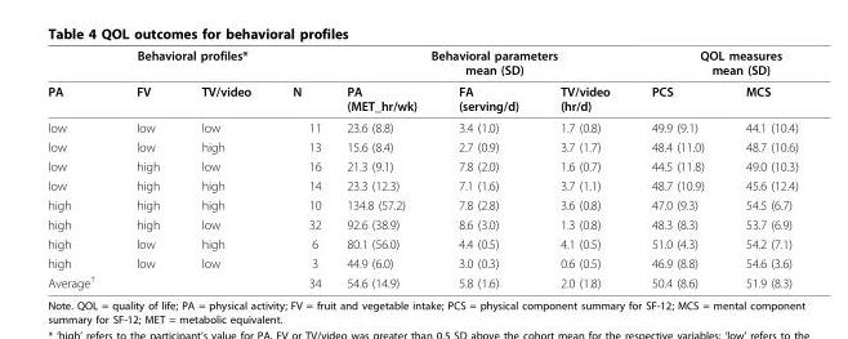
<table><thead><tr><td colspan="4">Behavioral profiles*</td><td colspan="3">Behavioral parameters mean (SD)</td><td colspan="2">QOL measures mean (SD)</td></tr><tr><td>PA</td><td>FV</td><td>TV/video</td><td>N</td><td>PA (MET_hr/wk)</td><td>FA (serving/d)</td><td>TV/video (hr/d)</td><td>PCS</td><td>MCS</td></tr></thead><tbody><tr><td>low</td><td>low</td><td>low</td><td>11</td><td>23.6 (8.8)</td><td>3.4 (1.0)</td><td>1.7 (0.8)</td><td>49.9 (9.1)</td><td>44.1 (10.4)</td></tr><tr><td>low</td><td>low</td><td>high</td><td>13</td><td>15.6 (8.4)</td><td>2.7 (0.9)</td><td>3.7 (1.7)</td><td>48.4 (11.0)</td><td>48.7 (10.6)</td></tr><tr><td>low</td><td>high</td><td>low</td><td>16</td><td>21.3 (9.1)</td><td>7.8 (2.0)</td><td>1.6 (0.7)</td><td>44.5 (11.8)</td><td>49.0 (10.3)</td></tr><tr><td>low</td><td>high</td><td>high</td><td>14</td><td>23.3 (12.3)</td><td>7.1 (1.6)</td><td>3.7 (1.1)</td><td>48.7 (10.9)</td><td>45.6 (12.4)</td></tr><tr><td>high</td><td>high</td><td>high</td><td>10</td><td>134.8 (57.2)</td><td>7.8 (2.8)</td><td>3.6 (0.8)</td><td>47.0 (9.3)</td><td>54.5 (6.7)</td></tr><tr><td>high</td><td>high</td><td>low</td><td>32</td><td>92.6 (38.9)</td><td>8.6 (3.0)</td><td>1.3 (0.8)</td><td>48.3 (8.3)</td><td>53.7 (6.9)</td></tr><tr><td>high</td><td>low</td><td>high</td><td>6</td><td>80.1 (56.0)</td><td>4.4 (0.5)</td><td>4.1 (0.5)</td><td>51.0 (4.3)</td><td>54.2 (7.1)</td></tr><tr><td>high</td><td>low</td><td>low</td><td>3</td><td>44.9 (6.0)</td><td>3.0 (0.3)</td><td>0.6 (0.5)</td><td>46.9 (8.8)</td><td>54.6 (3.6)</td></tr><tr><td>Average<sup>†</sup></td><td></td><td></td><td>34</td><td>54.6 (14.9)</td><td>5.8 (1.6)</td><td>2.0 (1.8)</td><td>50.4 (8.6)</td><td>51.9 (8.3)</td></tr></tbody></table>